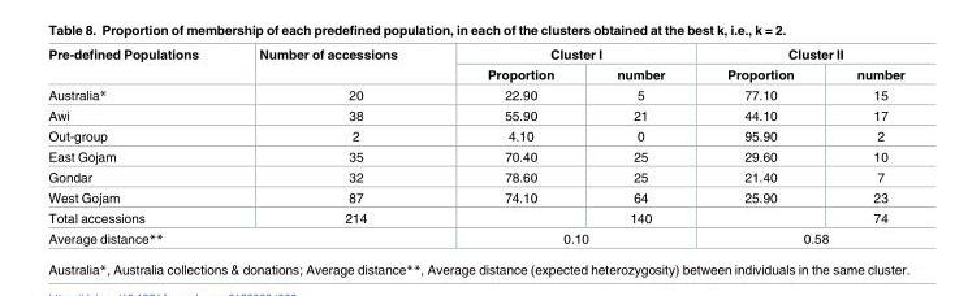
<table><thead><tr><td rowspan="2">Pre-defined Populations</td><td rowspan="2">Number of accessions</td><td colspan="2">Cluster I</td><td colspan="2">Cluster II</td></tr><tr><td>Proportion</td><td>number</td><td>Proportion</td><td>number</td></tr></thead><tbody><tr><td>Australia*</td><td>20</td><td>22.90</td><td>5</td><td>77.10</td><td>15</td></tr><tr><td>Awi</td><td>38</td><td>55.90</td><td>21</td><td>44.10</td><td>17</td></tr><tr><td>Out-group</td><td>2</td><td>4.10</td><td>0</td><td>95.90</td><td>2</td></tr><tr><td>East Gojam</td><td>35</td><td>70.40</td><td>25</td><td>29.60</td><td>10</td></tr><tr><td>Gondar</td><td>32</td><td>78.60</td><td>25</td><td>21.40</td><td>7</td></tr><tr><td>West Gojam</td><td>87</td><td>74.10</td><td>64</td><td>25.90</td><td>23</td></tr><tr><td>Total accessions</td><td>214</td><td></td><td>140</td><td></td><td>74</td></tr><tr><td colspan="2">Average distance**</td><td colspan="2">0.10</td><td colspan="2">0.58</td></tr></tbody></table>